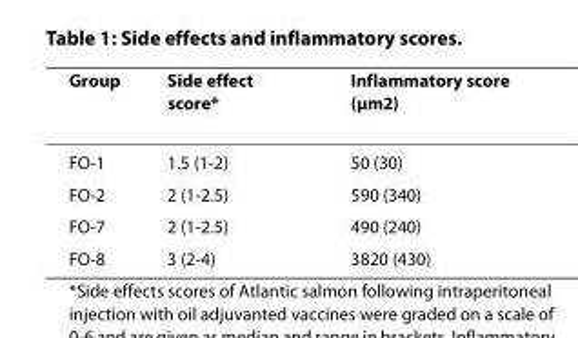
<table><thead><tr><td>Group</td><td>Side effect score*</td><td>Inflammatory score (μm2)</td></tr></thead><tbody><tr><td>FO-1</td><td>1.5 (1-2)</td><td>50 (30)</td></tr><tr><td>FO-2</td><td>2 (1-2.5)</td><td>590 (340)</td></tr><tr><td>FO-7</td><td>2 (1-2.5)</td><td>490 (240)</td></tr><tr><td>FO-8</td><td>3 (2-4)</td><td>3820 (430)</td></tr></tbody></table>